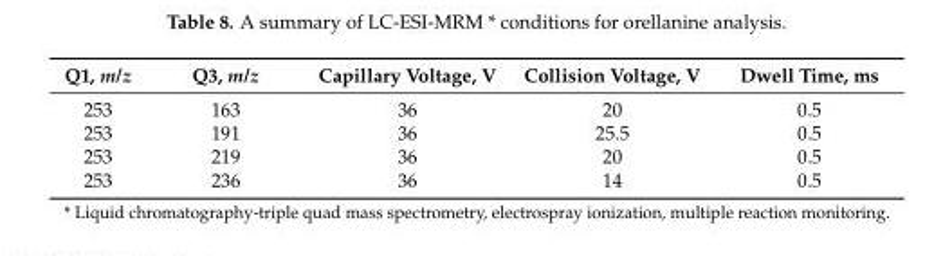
<table><thead><tr><td>Q1, m/z</td><td>Q3, m/z</td><td>Capillary Voltage, V</td><td>Collision Voltage, V</td><td>Dwell Time, ms</td></tr></thead><tbody><tr><td>253</td><td>163</td><td>36</td><td>20</td><td>0.5</td></tr><tr><td>253</td><td>191</td><td>36</td><td>25.5</td><td>0.5</td></tr><tr><td>253</td><td>219</td><td>36</td><td>20</td><td>0.5</td></tr><tr><td>253</td><td>236</td><td>36</td><td>14</td><td>0.5</td></tr></tbody></table>